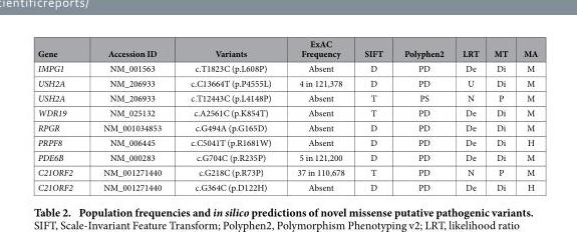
<table><thead><tr><td>Gene</td><td>Accession ID</td><td>Variants</td><td>ExAC Frequency</td><td>SIFT</td><td>Polyphen2</td><td>LRT</td><td>MT</td><td>MA</td></tr></thead><tbody><tr><td>IMPG1</td><td>NM_001563</td><td>c.T1823C (p.L608P)</td><td>Absent</td><td>D</td><td>PD</td><td>De</td><td>Di</td><td>M</td></tr><tr><td>USH2A</td><td>NM_206933</td><td>c.C13664T (p.P4555L)</td><td>4 in 121,378</td><td>D</td><td>PD</td><td>U</td><td>Di</td><td>M</td></tr><tr><td>USH2A</td><td>NM_206933</td><td>c.T12443C (p.L4148P)</td><td>Absent</td><td>T</td><td>PS</td><td>N</td><td>P</td><td>M</td></tr><tr><td>WDR19</td><td>NM_025132</td><td>c.A2561C (p.K854T)</td><td>Absent</td><td>T</td><td>PD</td><td>De</td><td>Di</td><td>M</td></tr><tr><td>RPGR</td><td>NM_001034853</td><td>c.G494A (p.G165D)</td><td>Absent</td><td>D</td><td>PD</td><td>De</td><td>Di</td><td>M</td></tr><tr><td>PRPF8</td><td>NM_006445</td><td>c.C5041T (p.R1681W)</td><td>Absent</td><td>D</td><td>PD</td><td>De</td><td>Di</td><td>H</td></tr><tr><td>PDE6B</td><td>NM_000283</td><td>c.G704C (p.R235P)</td><td>5 in 121,200</td><td>D</td><td>PD</td><td>De</td><td>Di</td><td>M</td></tr><tr><td>C21ORF2</td><td>NM_001271440</td><td>c.G218C (p.R73P)</td><td>37 in 110,678</td><td>T</td><td>PD</td><td>N</td><td>P</td><td>M</td></tr><tr><td>C21ORF2</td><td>NM_001271440</td><td>c.G364C (p.D122H)</td><td>Absent</td><td>D</td><td>PD</td><td>De</td><td>Di</td><td>H</td></tr></tbody></table>